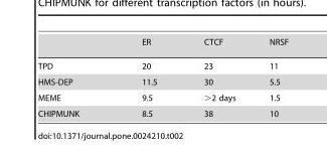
<table><thead><tr><td></td><td>ER</td><td>CTCF</td><td>NRSF</td></tr></thead><tbody><tr><td>TPD</td><td>20</td><td>23</td><td>11</td></tr><tr><td>HMS-DEP</td><td>11.5</td><td>30</td><td>5.5</td></tr><tr><td>MEME</td><td>9.5</td><td>&gt;2 days</td><td>1.5</td></tr><tr><td>CHIPMUNK</td><td>8.5</td><td>38</td><td>10</td></tr></tbody></table>